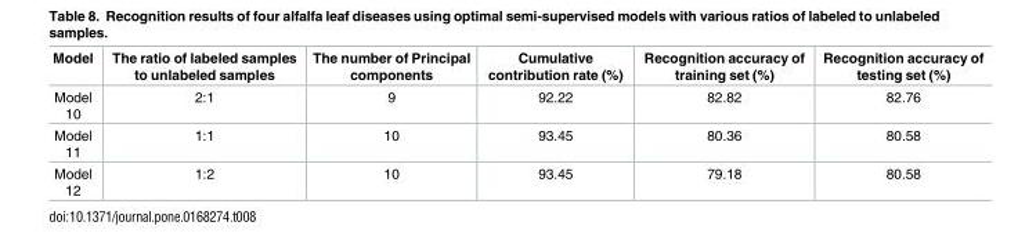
<table><thead><tr><td>Model</td><td>The ratio of labeled samples to unlabeled samples</td><td>The number of Principal components</td><td>Cumulative contribution rate (%)</td><td>Recognition accuracy of training set (%)</td><td>Recognition accuracy of testing set (%)</td></tr></thead><tbody><tr><td>Model 10</td><td>2:1</td><td>9</td><td>92.22</td><td>82.82</td><td>82.76</td></tr><tr><td>Model 11</td><td>1:1</td><td>10</td><td>93.45</td><td>80.36</td><td>80.58</td></tr><tr><td>Model 12</td><td>1:2</td><td>10</td><td>93.45</td><td>79.18</td><td>80.58</td></tr></tbody></table>